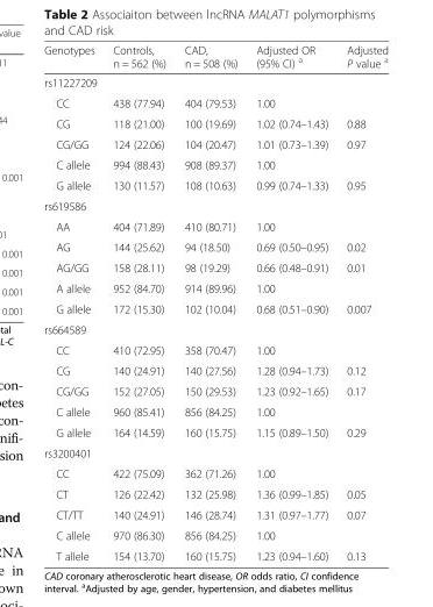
<table><thead><tr><td>Genotypes</td><td>Controls, n = 562 (%)</td><td>CAD, n = 508 (%)</td><td>Adjusted OR (95% CI) <sup>a</sup></td><td>Adjusted P value <sup>a</sup></td></tr></thead><tbody><tr><td colspan="5">rs11227209</td></tr><tr><td>CC</td><td>438 (77.94)</td><td>404 (79.53)</td><td>1.00</td><td></td></tr><tr><td>CG</td><td>118 (21.00)</td><td>100 (19.69)</td><td>1.02 (0.74–1.43)</td><td>0.88</td></tr><tr><td>CG/GG</td><td>124 (22.06)</td><td>104 (20.47)</td><td>1.01 (0.73–1.39)</td><td>0.97</td></tr><tr><td>C allele</td><td>994 (88.43)</td><td>908 (89.37)</td><td>1.00</td><td></td></tr><tr><td>G allele</td><td>130 (11.57)</td><td>108 (10.63)</td><td>0.99 (0.74–1.33)</td><td>0.95</td></tr><tr><td colspan="5">rs619586</td></tr><tr><td>AA</td><td>404 (71.89)</td><td>410 (80.71)</td><td>1.00</td><td></td></tr><tr><td>AG</td><td>144 (25.62)</td><td>94 (18.50)</td><td>0.69 (0.50–0.95)</td><td>0.02</td></tr><tr><td>AG/GG</td><td>158 (28.11)</td><td>98 (19.29)</td><td>0.66 (0.48–0.91)</td><td>0.01</td></tr><tr><td>A allele</td><td>952 (84.70)</td><td>914 (89.96)</td><td>1.00</td><td></td></tr><tr><td>G allele</td><td>172 (15.30)</td><td>102 (10.04)</td><td>0.68 (0.51–0.90)</td><td>0.007</td></tr><tr><td colspan="5">rs664589</td></tr><tr><td>CC</td><td>410 (72.95)</td><td>358 (70.47)</td><td>1.00</td><td></td></tr><tr><td>CG</td><td>140 (24.91)</td><td>140 (27.56)</td><td>1.28 (0.94–1.73)</td><td>0.12</td></tr><tr><td>CG/GG</td><td>152 (27.05)</td><td>150 (29.53)</td><td>1.23 (0.92–1.65)</td><td>0.17</td></tr><tr><td>C allele</td><td>960 (85.41)</td><td>856 (84.25)</td><td>1.00</td><td></td></tr><tr><td>G allele</td><td>164 (14.59)</td><td>160 (15.75)</td><td>1.15 (0.89–1.50)</td><td>0.29</td></tr><tr><td colspan="5">rs3200401</td></tr><tr><td>CC</td><td>422 (75.09)</td><td>362 (71.26)</td><td>1.00</td><td></td></tr><tr><td>CT</td><td>126 (22.42)</td><td>132 (25.98)</td><td>1.36 (0.99–1.85)</td><td>0.05</td></tr><tr><td>CT/TT</td><td>140 (24.91)</td><td>146 (28.74)</td><td>1.31 (0.97–1.77)</td><td>0.07</td></tr><tr><td>C allele</td><td>970 (86.30)</td><td>856 (84.25)</td><td>1.00</td><td></td></tr><tr><td>T allele</td><td>154 (13.70)</td><td>160 (15.75)</td><td>1.23 (0.94–1.60)</td><td>0.13</td></tr></tbody></table>